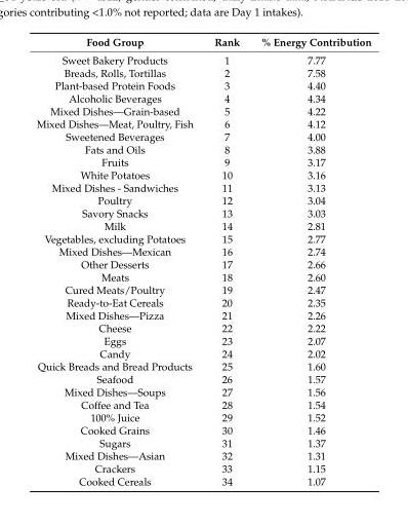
<table><thead><tr><td>Food Group</td><td>Rank</td><td>% Energy Contribution</td></tr></thead><tbody><tr><td>Sweet Bakery Products</td><td>1</td><td>7.77</td></tr><tr><td>Breads, Rolls, Tortillas</td><td>2</td><td>7.58</td></tr><tr><td>Plant-based Protein Foods</td><td>3</td><td>4.40</td></tr><tr><td>Alcoholic Beverages</td><td>4</td><td>4.34</td></tr><tr><td>Mixed Dishes—Grain-based</td><td>5</td><td>4.22</td></tr><tr><td>Mixed Dishes—Meat, Poultry, Fish</td><td>6</td><td>4.12</td></tr><tr><td>Sweetened Beverages</td><td>7</td><td>4.00</td></tr><tr><td>Fats and Oils</td><td>8</td><td>3.88</td></tr><tr><td>Fruits</td><td>9</td><td>3.17</td></tr><tr><td>White Potatoes</td><td>10</td><td>3.16</td></tr><tr><td>Mixed Dishes - Sandwiches</td><td>11</td><td>3.13</td></tr><tr><td>Poultry</td><td>12</td><td>3.04</td></tr><tr><td>Savory Snacks</td><td>13</td><td>3.03</td></tr><tr><td>Milk</td><td>14</td><td>2.81</td></tr><tr><td>Vegetables, excluding Potatoes</td><td>15</td><td>2.77</td></tr><tr><td>Mixed Dishes—Mexican</td><td>16</td><td>2.74</td></tr><tr><td>Other Desserts</td><td>17</td><td>2.66</td></tr><tr><td>Meats</td><td>18</td><td>2.60</td></tr><tr><td>Cured Meats/Poultry</td><td>19</td><td>2.47</td></tr><tr><td>Ready-to-Eat Cereals</td><td>20</td><td>2.35</td></tr><tr><td>Mixed Dishes—Pizza</td><td>21</td><td>2.26</td></tr><tr><td>Cheese</td><td>22</td><td>2.22</td></tr><tr><td>Eggs</td><td>23</td><td>2.07</td></tr><tr><td>Candy</td><td>24</td><td>2.02</td></tr><tr><td>Quick Breads and Bread Products</td><td>25</td><td>1.60</td></tr><tr><td>Seafood</td><td>26</td><td>1.57</td></tr><tr><td>Mixed Dishes—Soups</td><td>27</td><td>1.56</td></tr><tr><td>Coffee and Tea</td><td>28</td><td>1.54</td></tr><tr><td>100% Juice</td><td>29</td><td>1.52</td></tr><tr><td>Cooked Grains</td><td>30</td><td>1.46</td></tr><tr><td>Sugars</td><td>31</td><td>1.37</td></tr><tr><td>Mixed Dishes—Asian</td><td>32</td><td>1.31</td></tr><tr><td>Crackers</td><td>33</td><td>1.15</td></tr><tr><td>Cooked Cereals</td><td>34</td><td>1.07</td></tr></tbody></table>